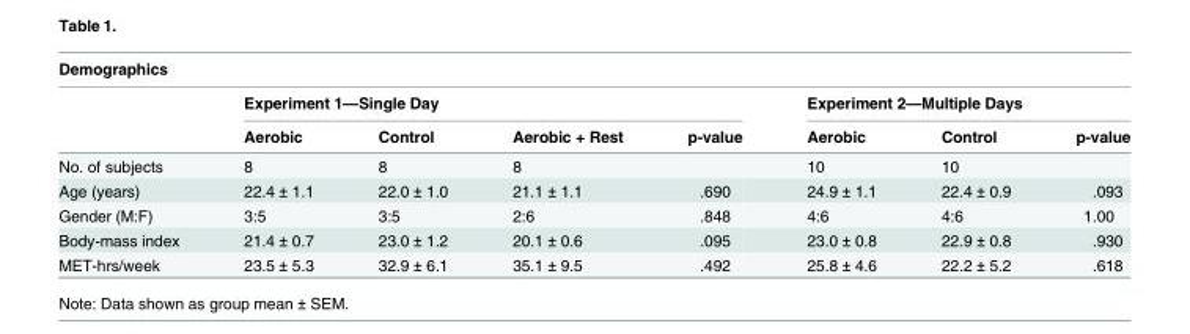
<table><thead><tr><td colspan="8">Demographics</td></tr><tr><td rowspan="2"></td><td colspan="4">Experiment 1—Single Day</td><td colspan="3">Experiment 2—Multiple Days</td></tr><tr><td>Aerobic</td><td>Control</td><td>Aerobic + Rest</td><td>p-value</td><td>Aerobic</td><td>Control</td><td>p-value</td></tr></thead><tbody><tr><td>No. of subjects</td><td>8</td><td>8</td><td>8</td><td></td><td>10</td><td>10</td><td></td></tr><tr><td>Age (years)</td><td>22.4 ± 1.1</td><td>22.0 ± 1.0</td><td>21.1 ± 1.1</td><td>.690</td><td>24.9 ± 1.1</td><td>22.4 ± 0.9</td><td>.093</td></tr><tr><td>Gender (M:F)</td><td>3:5</td><td>3:5</td><td>2:6</td><td>.848</td><td>4:6</td><td>4:6</td><td>1.00</td></tr><tr><td>Body-mass index</td><td>21.4 ± 0.7</td><td>23.0 ± 1.2</td><td>20.1 ± 0.6</td><td>.095</td><td>23.0 ± 0.8</td><td>22.9 ± 0.8</td><td>.930</td></tr><tr><td>MET-hrs/week</td><td>23.5 ± 5.3</td><td>32.9 ± 6.1</td><td>35.1 ± 9.5</td><td>.492</td><td>25.8 ± 4.6</td><td>22.2 ± 5.2</td><td>.618</td></tr></tbody></table>